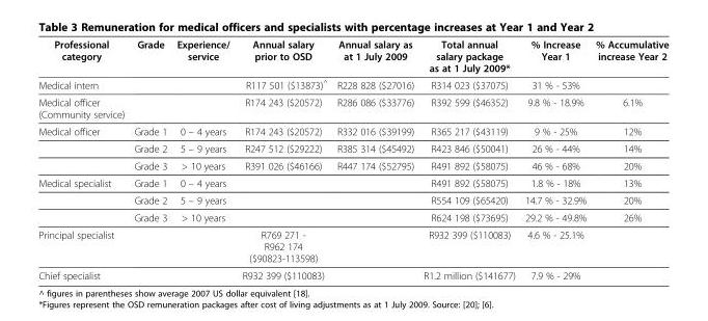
<table><thead><tr><td>Professional category</td><td>Grade</td><td>Experience/ service</td><td>Annual salary prior to OSD</td><td>Annual salary as at 1 July 2009</td><td>Total annual salary package as at 1 July 2009*</td><td>% Increase Year 1</td><td>% Accumulative increase Year 2</td></tr></thead><tbody><tr><td>Medical intern</td><td></td><td></td><td>R117 501 ($13873)<sup>^</sup></td><td>R228 828 ($27016)</td><td>R314 023 ($37075)</td><td>31 % - 53%</td><td></td></tr><tr><td>Medical officer (Community service)</td><td></td><td></td><td>R174 243 ($20572)</td><td>R286 086 ($33776)</td><td>R392 599 ($46352)</td><td>9.8 % - 18.9%</td><td>6.1%</td></tr><tr><td rowspan="3">Medical officer</td><td>Grade 1</td><td>0 – 4 years</td><td>R174 243 ($20572)</td><td>R332 016 ($39199)</td><td>R365 217 ($43119)</td><td>9 % - 25%</td><td>12%</td></tr><tr><td>Grade 2</td><td>5 – 9 years</td><td>R247 512 ($29222)</td><td>R385 314 ($45492)</td><td>R423 846 ($50041)</td><td>26 % - 44%</td><td>14%</td></tr><tr><td>Grade 3</td><td>&gt; 10 years</td><td>R391 026 ($46166)</td><td>R447 174 ($52795)</td><td>R491 892 ($58075)</td><td>46 % - 68%</td><td>20%</td></tr><tr><td rowspan="3">Medical specialist</td><td>Grade 1</td><td>0 – 4 years</td><td></td><td></td><td>R491 892 ($58075)</td><td>1.8 % - 18%</td><td>13%</td></tr><tr><td>Grade 2</td><td>5 – 9 years</td><td></td><td></td><td>R554 109 ($65420)</td><td>14.7 % - 32.9%</td><td>20%</td></tr><tr><td>Grade 3</td><td>&gt; 10 years</td><td></td><td></td><td>R624 198 ($73695)</td><td>29.2 % - 49.8%</td><td>26%</td></tr><tr><td>Principal specialist</td><td></td><td></td><td>R769 271 - R962 174 ($90823-113598)</td><td></td><td>R932 399 ($110083)</td><td>4.6 % - 25.1%</td><td></td></tr><tr><td>Chief specialist</td><td></td><td></td><td>R932 399 ($110083)</td><td></td><td>R1.2 million ($141677)</td><td>7.9 % - 29%</td><td></td></tr></tbody></table>